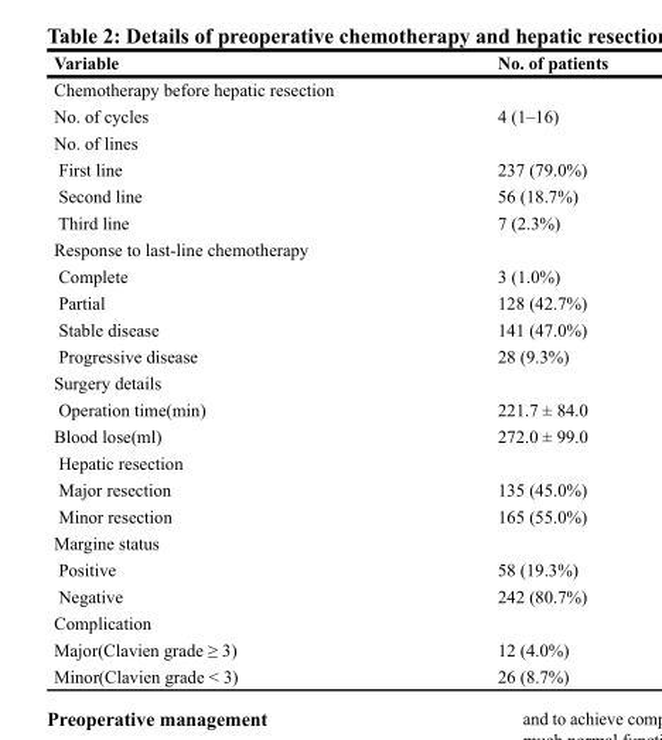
<table><thead><tr><td>Variable</td><td>No. of patients</td></tr></thead><tbody><tr><td colspan="2">Chemotherapy before hepatic resection</td></tr><tr><td>No. of cycles</td><td>4 (1–16)</td></tr><tr><td colspan="2">No. of lines</td></tr><tr><td>First line</td><td>237 (79.0%)</td></tr><tr><td>Second line</td><td>56 (18.7%)</td></tr><tr><td>Third line</td><td>7 (2.3%)</td></tr><tr><td colspan="2">Response to last-line chemotherapy</td></tr><tr><td>Complete</td><td>3 (1.0%)</td></tr><tr><td>Partial</td><td>128 (42.7%)</td></tr><tr><td>Stable disease</td><td>141 (47.0%)</td></tr><tr><td>Progressive disease</td><td>28 (9.3%)</td></tr><tr><td colspan="2">Surgery details</td></tr><tr><td>Operation time(min)</td><td>221.7 ± 84.0</td></tr><tr><td>Blood lose(ml)</td><td>272.0 ± 99.0</td></tr><tr><td colspan="2">Hepatic resection</td></tr><tr><td>Major resection</td><td>135 (45.0%)</td></tr><tr><td>Minor resection</td><td>165 (55.0%)</td></tr><tr><td colspan="2">Margine status</td></tr><tr><td>Positive</td><td>58 (19.3%)</td></tr><tr><td>Negative</td><td>242 (80.7%)</td></tr><tr><td colspan="2">Complication</td></tr><tr><td>Major(Clavien grade ≥ 3)</td><td>12 (4.0%)</td></tr><tr><td>Minor(Clavien grade &lt; 3)</td><td>26 (8.7%)</td></tr></tbody></table>